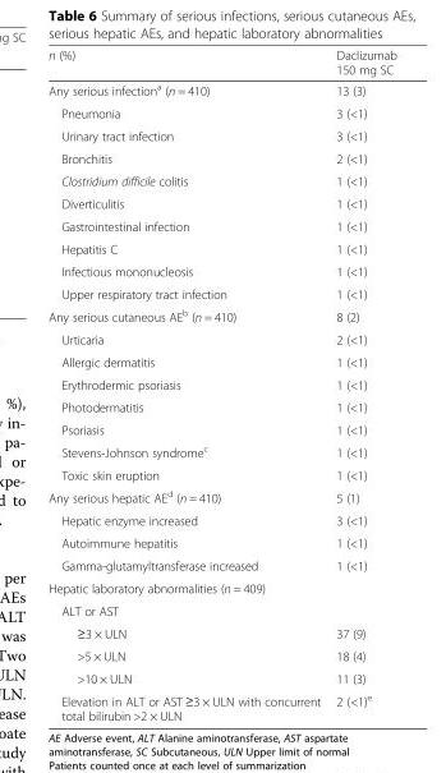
<table><thead><tr><td>n (%)</td><td>Daclizumab 150 mg SC</td></tr></thead><tbody><tr><td>Any serious infection<sup>a</sup> (n = 410)</td><td>13 (3)</td></tr><tr><td>Pneumonia</td><td>3 (&lt;1)</td></tr><tr><td>Urinary tract infection</td><td>3 (&lt;1)</td></tr><tr><td>Bronchitis</td><td>2 (&lt;1)</td></tr><tr><td>Clostridium difficile colitis</td><td>1 (&lt;1)</td></tr><tr><td>Diverticulitis</td><td>1 (&lt;1)</td></tr><tr><td>Gastrointestinal infection</td><td>1 (&lt;1)</td></tr><tr><td>Hepatitis C</td><td>1 (&lt;1)</td></tr><tr><td>Infectious mononucleosis</td><td>1 (&lt;1)</td></tr><tr><td>Upper respiratory tract infection</td><td>1 (&lt;1)</td></tr><tr><td>Any serious cutaneous AE<sup>b</sup> (n = 410)</td><td>8 (2)</td></tr><tr><td>Urticaria</td><td>2 (&lt;1)</td></tr><tr><td>Allergic dermatitis</td><td>1 (&lt;1)</td></tr><tr><td>Erythrodermic psoriasis</td><td>1 (&lt;1)</td></tr><tr><td>Photodermatitis</td><td>1 (&lt;1)</td></tr><tr><td>Psoriasis</td><td>1 (&lt;1)</td></tr><tr><td>Stevens-Johnson syndrome<sup>c</sup></td><td>1 (&lt;1)</td></tr><tr><td>Toxic skin eruption</td><td>1 (&lt;1)</td></tr><tr><td>Any serious hepatic AE<sup>d</sup> (n = 410)</td><td>5 (1)</td></tr><tr><td>Hepatic enzyme increased</td><td>3 (&lt;1)</td></tr><tr><td>Autoimmune hepatitis</td><td>1 (&lt;1)</td></tr><tr><td>Gamma-glutamyltransferase increased</td><td>1 (&lt;1)</td></tr><tr><td colspan="2">Hepatic laboratory abnormalities (n = 409)</td></tr><tr><td colspan="2">ALT or AST</td></tr><tr><td>≥3 × ULN</td><td>37 (9)</td></tr><tr><td>&gt;5 × ULN</td><td>18 (4)</td></tr><tr><td>&gt;10 × ULN</td><td>11 (3)</td></tr><tr><td>Elevation in ALT or AST ≥3 × ULN with concurrent total bilirubin &gt;2 × ULN</td><td>2 (&lt;1)<sup>e</sup></td></tr></tbody></table>